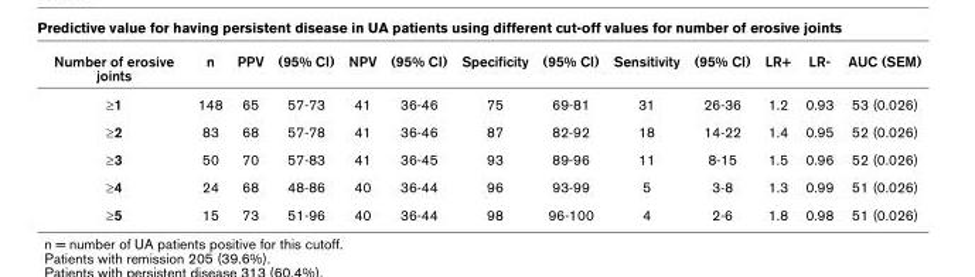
<table><thead><tr><td>Number of erosive joints</td><td>n</td><td>PPV</td><td>(95% CI)</td><td>NPV</td><td>(95% CI)</td><td>Specificity</td><td>(95% CI)</td><td>Sensitivity</td><td>(95% CI)</td><td>LR+</td><td>LR-</td><td>AUC (SEM)</td></tr></thead><tbody><tr><td>≥1</td><td>148</td><td>65</td><td>57-73</td><td>41</td><td>36-46</td><td>75</td><td>69-81</td><td>31</td><td>26-36</td><td>1.2</td><td>0.93</td><td>53 (0.026)</td></tr><tr><td>≥2</td><td>83</td><td>68</td><td>57-78</td><td>41</td><td>36-46</td><td>87</td><td>82-92</td><td>18</td><td>14-22</td><td>1.4</td><td>0.95</td><td>52 (0.026)</td></tr><tr><td>≥3</td><td>50</td><td>70</td><td>57-83</td><td>41</td><td>36-45</td><td>93</td><td>89-96</td><td>11</td><td>8-15</td><td>1.5</td><td>0.96</td><td>52 (0.026)</td></tr><tr><td>≥4</td><td>24</td><td>68</td><td>48-86</td><td>40</td><td>36-44</td><td>96</td><td>93-99</td><td>5</td><td>3-8</td><td>1.3</td><td>0.99</td><td>51 (0.026)</td></tr><tr><td>≥5</td><td>15</td><td>73</td><td>51-96</td><td>40</td><td>36-44</td><td>98</td><td>96-100</td><td>4</td><td>2-6</td><td>1.8</td><td>0.98</td><td>51 (0.026)</td></tr></tbody></table>